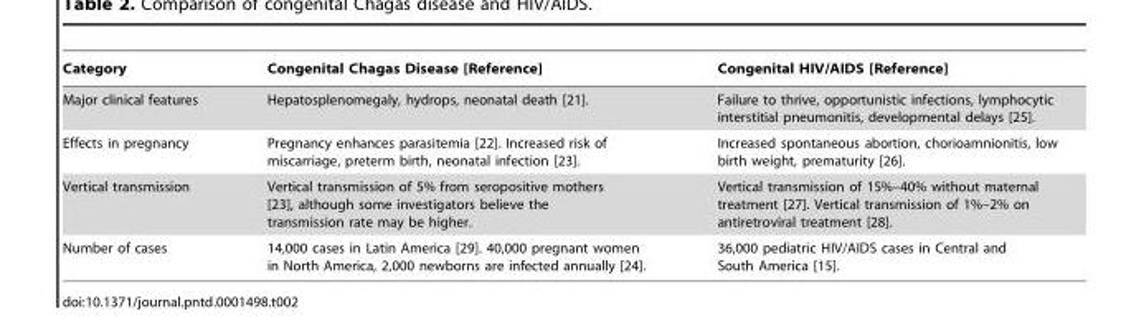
<table><thead><tr><td>Category</td><td>Congenital Chagas Disease [Reference]</td><td>Congenital HIV/AIDS [Reference]</td></tr></thead><tbody><tr><td>Major clinical features</td><td>Hepatosplenomegaly, hydrops, neonatal death [21].</td><td>Failure to thrive, opportunistic infections, lymphocytic interstitial pneumonitis, developmental delays [25].</td></tr><tr><td>Effects in pregnancy</td><td>Pregnancy enhances parasitemia [22]. Increased risk of miscarriage, preterm birth, neonatal infection [23].</td><td>Increased spontaneous abortion, chorioamnionitis, low birth weight, prematurity [26].</td></tr><tr><td>Vertical transmission</td><td>Vertical transmission of 5% from seropositive mothers [23], although some investigators believe the transmission rate may be higher.</td><td>Vertical transmission of 15%–40% without maternal treatment [27]. Vertical transmission of 1%–2% on antiretroviral treatment [28].</td></tr><tr><td>Number of cases</td><td>14,000 cases in Latin America [29]. 40,000 pregnant women in North America, 2,000 newborns are infected annually [24].</td><td>36,000 pediatric HIV/AIDS cases in Central and South America [15].</td></tr></tbody></table>